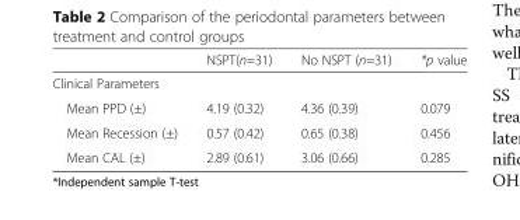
<table><thead><tr><td></td><td>NSPT(n=31)</td><td>No NSPT (n=31)</td><td>*p value</td></tr></thead><tbody><tr><td colspan="4">Clinical Parameters</td></tr><tr><td>Mean PPD (±)</td><td>4.19 (0.32)</td><td>4.36 (0.39)</td><td>0.079</td></tr><tr><td>Mean Recession (±)</td><td>0.57 (0.42)</td><td>0.65 (0.38)</td><td>0.456</td></tr><tr><td>Mean CAL (±)</td><td>2.89 (0.61)</td><td>3.06 (0.66)</td><td>0.285</td></tr></tbody></table>